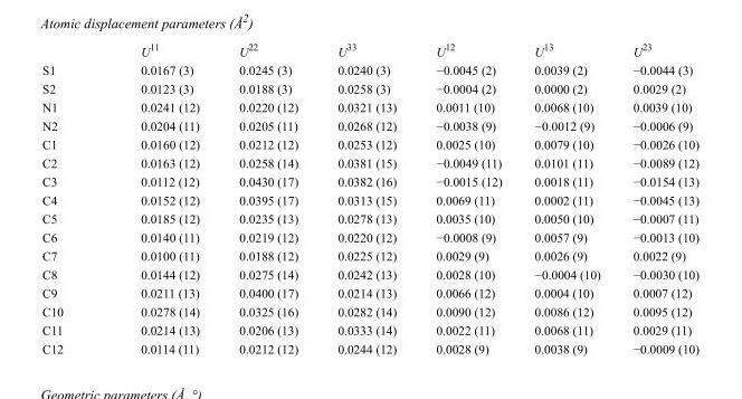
<table><thead><tr><td></td><td>U<sup>11</sup></td><td>U<sup>22</sup></td><td>U<sup>33</sup></td><td>U<sup>12</sup></td><td>U<sup>13</sup></td><td>U<sup>23</sup></td></tr></thead><tbody><tr><td>S1</td><td>0.0167 (3)</td><td>0.0245 (3)</td><td>0.0240 (3)</td><td>−0.0045 (2)</td><td>0.0039 (2)</td><td>−0.0044 (3)</td></tr><tr><td>S2</td><td>0.0123 (3)</td><td>0.0188 (3)</td><td>0.0258 (3)</td><td>−0.0004 (2)</td><td>0.0000 (2)</td><td>0.0029 (2)</td></tr><tr><td>N1</td><td>0.0241 (12)</td><td>0.0220 (12)</td><td>0.0321 (13)</td><td>0.0011 (10)</td><td>0.0068 (10)</td><td>0.0039 (10)</td></tr><tr><td>N2</td><td>0.0204 (11)</td><td>0.0205 (11)</td><td>0.0268 (12)</td><td>−0.0038 (9)</td><td>−0.0012 (9)</td><td>−0.0006 (9)</td></tr><tr><td>C1</td><td>0.0160 (12)</td><td>0.0212 (12)</td><td>0.0253 (12)</td><td>0.0025 (10)</td><td>0.0079 (10)</td><td>−0.0026 (10)</td></tr><tr><td>C2</td><td>0.0163 (12)</td><td>0.0258 (14)</td><td>0.0381 (15)</td><td>−0.0049 (11)</td><td>0.0101 (11)</td><td>−0.0089 (12)</td></tr><tr><td>C3</td><td>0.0112 (12)</td><td>0.0430 (17)</td><td>0.0382 (16)</td><td>−0.0015 (12)</td><td>0.0018 (11)</td><td>−0.0154 (13)</td></tr><tr><td>C4</td><td>0.0152 (12)</td><td>0.0395 (17)</td><td>0.0313 (15)</td><td>0.0069 (11)</td><td>0.0002 (11)</td><td>−0.0045 (13)</td></tr><tr><td>C5</td><td>0.0185 (12)</td><td>0.0235 (13)</td><td>0.0278 (13)</td><td>0.0035 (10)</td><td>0.0050 (10)</td><td>−0.0007 (11)</td></tr><tr><td>C6</td><td>0.0140 (11)</td><td>0.0219 (12)</td><td>0.0220 (12)</td><td>−0.0008 (9)</td><td>0.0057 (9)</td><td>−0.0013 (10)</td></tr><tr><td>C7</td><td>0.0100 (11)</td><td>0.0188 (12)</td><td>0.0225 (12)</td><td>0.0029 (9)</td><td>0.0026 (9)</td><td>0.0022 (9)</td></tr><tr><td>C8</td><td>0.0144 (12)</td><td>0.0275 (14)</td><td>0.0242 (13)</td><td>0.0028 (10)</td><td>−0.0004 (10)</td><td>−0.0030 (10)</td></tr><tr><td>C9</td><td>0.0211 (13)</td><td>0.0400 (17)</td><td>0.0214 (13)</td><td>0.0066 (12)</td><td>0.0004 (10)</td><td>0.0007 (12)</td></tr><tr><td>C10</td><td>0.0278 (14)</td><td>0.0325 (16)</td><td>0.0282 (14)</td><td>0.0090 (12)</td><td>0.0086 (12)</td><td>0.0095 (12)</td></tr><tr><td>C11</td><td>0.0214 (13)</td><td>0.0206 (13)</td><td>0.0333 (14)</td><td>0.0022 (11)</td><td>0.0068 (11)</td><td>0.0029 (11)</td></tr><tr><td>C12</td><td>0.0114 (11)</td><td>0.0212 (12)</td><td>0.0244 (12)</td><td>0.0028 (9)</td><td>0.0038 (9)</td><td>−0.0009 (10)</td></tr></tbody></table>